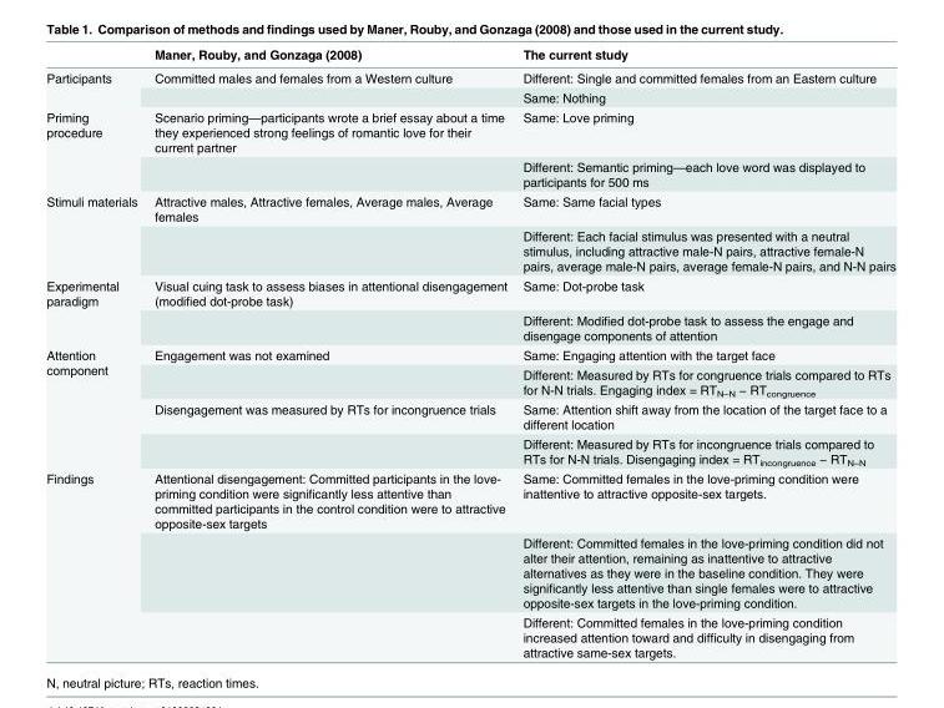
<table><thead><tr><td></td><td>Maner, Rouby, and Gonzaga (2008)</td><td>The current study</td></tr></thead><tbody><tr><td rowspan="2">Participants</td><td>Committed males and females from a Western culture</td><td>Different: Single and committed females from an Eastern culture</td></tr><tr><td></td><td>Same: Nothing</td></tr><tr><td rowspan="2">Priming procedure</td><td>Scenario priming—participants wrote a brief essay about a time they experienced strong feelings of romantic love for their current partner</td><td>Same: Love priming</td></tr><tr><td></td><td>Different: Semantic priming—each love word was displayed to participants for 500 ms</td></tr><tr><td rowspan="2">Stimuli materials</td><td>Attractive males, Attractive females, Average males, Average females</td><td>Same: Same facial types</td></tr><tr><td></td><td>Different: Each facial stimulus was presented with a neutral stimulus, including attractive male-N pairs, attractive female-N pairs, average male-N pairs, average female-N pairs, and N-N pairs</td></tr><tr><td rowspan="2">Experimental paradigm</td><td>Visual cuing task to assess biases in attentional disengagement (modified dot-probe task)</td><td>Same: Dot-probe task</td></tr><tr><td></td><td>Different: Modified dot-probe task to assess the engage and disengage components of attention</td></tr><tr><td rowspan="4">Attention component</td><td>Engagement was not examined</td><td>Same: Engaging attention with the target face</td></tr><tr><td></td><td>Different: Measured by RTs for congruence trials compared to RTs for N-N trials. Engaging index = RT<sub>N–N</sub> − RT<sub>congruence</sub></td></tr><tr><td>Disengagement was measured by RTs for incongruence trials</td><td>Same: Attention shift away from the location of the target face to a different location</td></tr><tr><td></td><td>Different: Measured by RTs for incongruence trials compared to RTs for N-N trials. Disengaging index = RT<sub>incongruence</sub> − RT<sub>N–N</sub></td></tr><tr><td rowspan="3">Findings</td><td>Attentional disengagement: Committed participants in the love- priming condition were significantly less attentive than committed participants in the control condition were to attractive opposite-sex targets</td><td>Same: Committed females in the love-priming condition were inattentive to attractive opposite-sex targets.</td></tr><tr><td></td><td>Different: Committed females in the love-priming condition did not alter their attention, remaining as inattentive to attractive alternatives as they were in the baseline condition. They were significantly less attentive than single females were to attractive opposite-sex targets in the love-priming condition.</td></tr><tr><td></td><td>Different: Committed females in the love-priming condition increased attention toward and difficulty in disengaging from attractive same-sex targets.</td></tr></tbody></table>